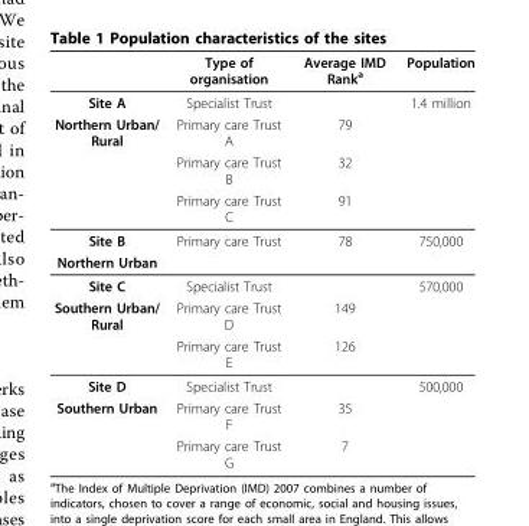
<table><thead><tr><td></td><td>Type of organisation</td><td>Average IMD Rank<sup>a</sup></td><td>Population</td></tr></thead><tbody><tr><td>Site A</td><td>Specialist Trust</td><td></td><td>1.4 million</td></tr><tr><td rowspan="3">Northern Urban/ Rural</td><td>Primary care Trust A</td><td>79</td><td></td></tr><tr><td>Primary care Trust B</td><td>32</td><td></td></tr><tr><td>Primary care Trust C</td><td>91</td><td></td></tr><tr><td>Site B</td><td>Primary care Trust</td><td>78</td><td>750,000</td></tr><tr><td colspan="4">Northern Urban</td></tr><tr><td>Site C</td><td>Specialist Trust</td><td></td><td>570,000</td></tr><tr><td rowspan="2">Southern Urban/ Rural</td><td>Primary care Trust D</td><td>149</td><td></td></tr><tr><td>Primary care Trust E</td><td>126</td><td></td></tr><tr><td>Site D</td><td>Specialist Trust</td><td></td><td>500,000</td></tr><tr><td rowspan="2">Southern Urban</td><td>Primary care Trust F</td><td>35</td><td></td></tr><tr><td>Primary care Trust G</td><td>7</td><td></td></tr></tbody></table>